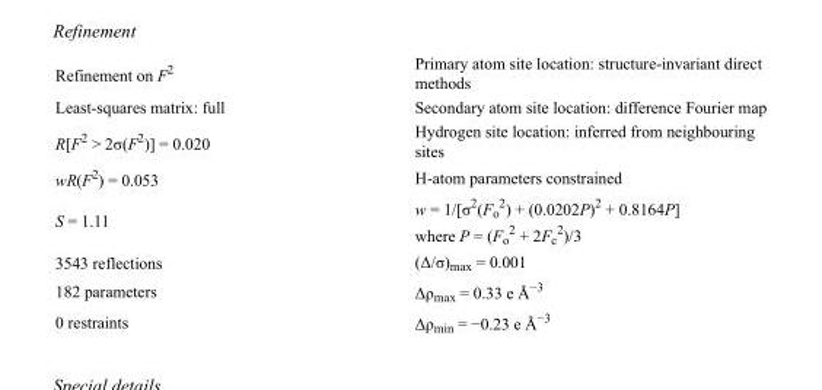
<table><tbody><tr><td>Refinement on F<sup>2</sup></td><td>Primary atom site location: structure-invariant direct methods</td></tr><tr><td>Least-squares matrix: full</td><td>Secondary atom site location: difference Fourier map</td></tr><tr><td>R[F<sup>2</sup> &gt; 2σ(F<sup>2</sup>)] = 0.020</td><td>Hydrogen site location: inferred from neighbouring sites</td></tr><tr><td>wR(F<sup>2</sup>) = 0.053</td><td>H-atom parameters constrained</td></tr><tr><td>S = 1.11</td><td>w = 1/[σ<sup>2</sup>(F<sub>o</sub> <sup>2</sup>) + (0.0202P)<sup>2</sup> + 0.8164P] where P = (F<sub>o</sub> <sup>2</sup> + 2F<sub>c</sub> <sup>2</sup>)/3</td></tr><tr><td>3543 reflections</td><td>(Δ/σ)<sub>max</sub> = 0.001</td></tr><tr><td>182 parameters</td><td>Δρ<sub>max</sub> = 0.33 e Å<sup>−3</sup></td></tr><tr><td>0 restraints</td><td>Δρ<sub>min</sub> = −0.23 e Å<sup>−3</sup></td></tr></tbody></table>